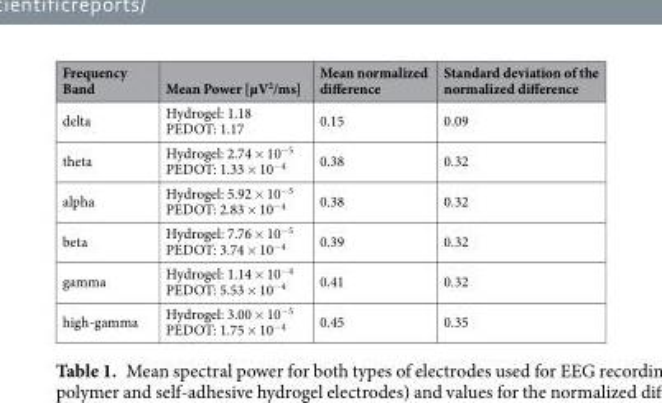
<table><thead><tr><td>Frequency Band</td><td>Mean Power [µV<sup>2</sup>/ms]</td><td>Mean normalized difference</td><td>Standard deviation of the normalized difference</td></tr></thead><tbody><tr><td>delta</td><td>Hydrogel: 1.18 PEDOT: 1.17</td><td>0.15</td><td>0.09</td></tr><tr><td>theta</td><td>Hydrogel: 2.74 × 10<sup>−5</sup> PEDOT: 1.33 × 10<sup>−4</sup></td><td>0.38</td><td>0.32</td></tr><tr><td>alpha</td><td>Hydrogel: 5.92 × 10<sup>−5</sup> PEDOT: 2.83 × 10<sup>−4</sup></td><td>0.38</td><td>0.32</td></tr><tr><td>beta</td><td>Hydrogel: 7.76 × 10<sup>−5</sup> PEDOT: 3.74 × 10<sup>−4</sup></td><td>0.39</td><td>0.32</td></tr><tr><td>gamma</td><td>Hydrogel: 1.14 × 10<sup>−4</sup> PEDOT: 5.53 × 10<sup>−4</sup></td><td>0.41</td><td>0.32</td></tr><tr><td>high-gamma</td><td>Hydrogel: 3.00 × 10<sup>−5</sup> PEDOT: 1.75 × 10<sup>−4</sup></td><td>0.45</td><td>0.35</td></tr></tbody></table>